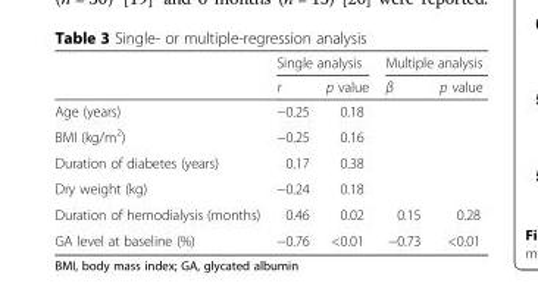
<table><thead><tr><td rowspan="2"></td><td colspan="2">Single analysis</td><td colspan="2">Multiple analysis</td></tr><tr><td>r</td><td>p value</td><td>β</td><td>p value</td></tr></thead><tbody><tr><td>Age (years)</td><td>−0.25</td><td>0.18</td><td></td><td></td></tr><tr><td>BMI (kg/m<sup>2</sup>)</td><td>−0.25</td><td>0.16</td><td></td><td></td></tr><tr><td>Duration of diabetes (years)</td><td>0.17</td><td>0.38</td><td></td><td></td></tr><tr><td>Dry weight (kg)</td><td>−0.24</td><td>0.18</td><td></td><td></td></tr><tr><td>Duration of hemodialysis (months)</td><td>0.46</td><td>0.02</td><td>0.15</td><td>0.28</td></tr><tr><td>GA level at baseline (%)</td><td>−0.76</td><td>&lt;0.01</td><td>−0.73</td><td>&lt;0.01</td></tr></tbody></table>